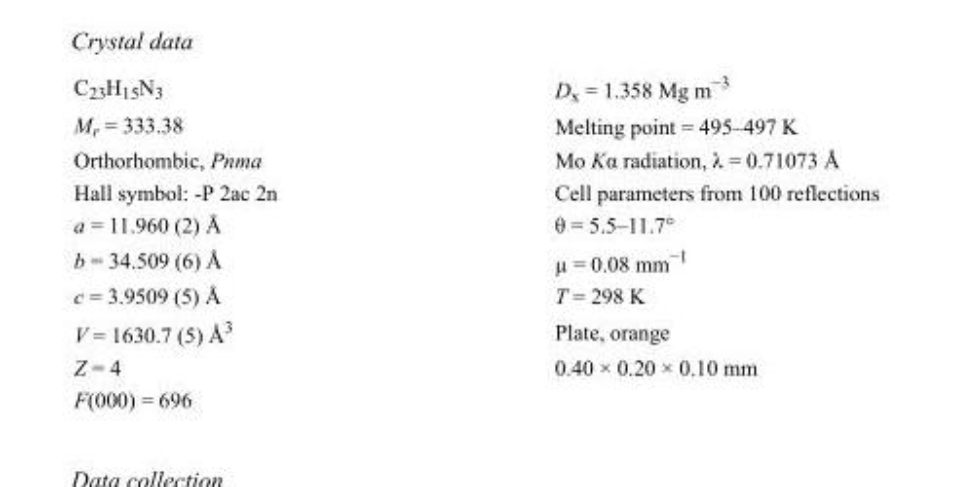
<table><tbody><tr><td>C<sub>23</sub>H<sub>15</sub>N<sub>3</sub></td><td>D<sub>x</sub> = 1.358 Mg m<sup>−3</sup></td></tr><tr><td>M<sub>r</sub> = 333.38</td><td>Melting point = 495–497 K</td></tr><tr><td>Orthorhombic, Pnma</td><td>Mo Kα radiation, λ = 0.71073 Å</td></tr><tr><td>Hall symbol: -P 2ac 2n</td><td>Cell parameters from 100 reflections</td></tr><tr><td>a = 11.960 (2) Å</td><td>θ = 5.5–11.7°</td></tr><tr><td>b = 34.509 (6) Å</td><td>µ = 0.08 mm<sup>−1</sup></td></tr><tr><td>c = 3.9509 (5) Å</td><td>T = 298 K</td></tr><tr><td>V = 1630.7 (5) Å<sup>3</sup></td><td>Plate, orange</td></tr><tr><td>Z = 4</td><td>0.40 × 0.20 × 0.10 mm</td></tr><tr><td>F(000) = 696</td><td></td></tr></tbody></table>